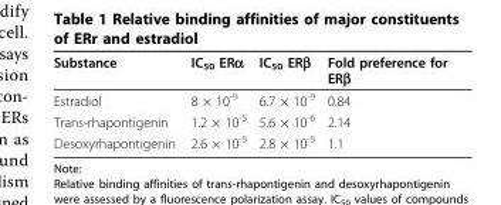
<table><thead><tr><td>Substance</td><td>IC<sub>50</sub> ERα</td><td>IC<sub>50</sub> ERβ</td><td>Fold preference for ERβ</td></tr></thead><tbody><tr><td>Estradiol</td><td>8 × 10<sup>-9</sup></td><td>6.7 × 10<sup>-9</sup></td><td>0.84</td></tr><tr><td>Trans-rhapontigenin</td><td>1.2 × 10<sup>-5</sup></td><td>5.6 × 10<sup>-6</sup></td><td>2.14</td></tr><tr><td>Desoxyrhapontigenin</td><td>2.6 × 10<sup>-5</sup></td><td>2.8 × 10<sup>-5</sup></td><td>1.1</td></tr></tbody></table>